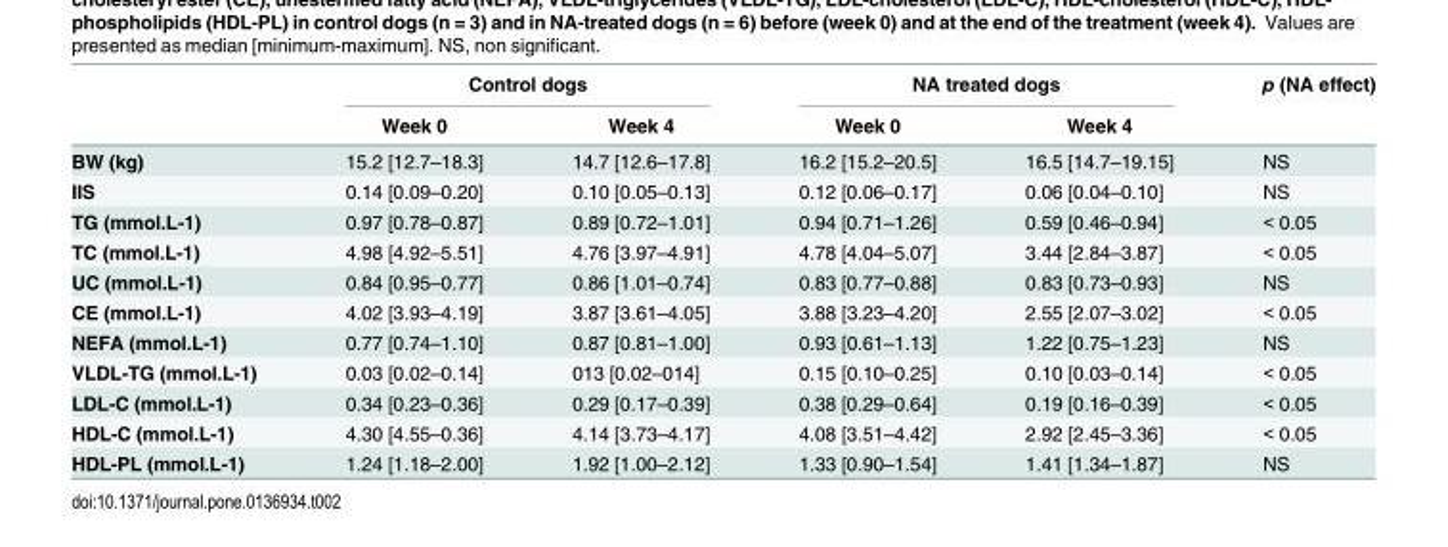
<table><thead><tr><td rowspan="2"></td><td colspan="2">Control dogs</td><td colspan="2">NA treated dogs</td><td rowspan="2">p (NA effect)</td></tr><tr><td>Week 0</td><td>Week 4</td><td>Week 0</td><td>Week 4</td></tr></thead><tbody><tr><td>BW (kg)</td><td>15.2 [12.7–18.3]</td><td>14.7 [12.6–17.8]</td><td>16.2 [15.2–20.5]</td><td>16.5 [14.7–19.15]</td><td>NS</td></tr><tr><td>IIS</td><td>0.14 [0.09–0.20]</td><td>0.10 [0.05–0.13]</td><td>0.12 [0.06–0.17]</td><td>0.06 [0.04–0.10]</td><td>NS</td></tr><tr><td>TG (mmol.L-1)</td><td>0.97 [0.78–0.87]</td><td>0.89 [0.72–1.01]</td><td>0.94 [0.71–1.26]</td><td>0.59 [0.46–0.94]</td><td>&lt; 0.05</td></tr><tr><td>TC (mmol.L-1)</td><td>4.98 [4.92–5.51]</td><td>4.76 [3.97–4.91]</td><td>4.78 [4.04–5.07]</td><td>3.44 [2.84–3.87]</td><td>&lt; 0.05</td></tr><tr><td>UC (mmol.L-1)</td><td>0.84 [0.95–0.77]</td><td>0.86 [1.01–0.74]</td><td>0.83 [0.77–0.88]</td><td>0.83 [0.73–0.93]</td><td>NS</td></tr><tr><td>CE (mmol.L-1)</td><td>4.02 [3.93–4.19]</td><td>3.87 [3.61–4.05]</td><td>3.88 [3.23–4.20]</td><td>2.55 [2.07–3.02]</td><td>&lt; 0.05</td></tr><tr><td>NEFA (mmol.L-1)</td><td>0.77 [0.74–1.10]</td><td>0.87 [0.81–1.00]</td><td>0.93 [0.61–1.13]</td><td>1.22 [0.75–1.23]</td><td>NS</td></tr><tr><td>VLDL-TG (mmol.L-1)</td><td>0.03 [0.02–0.14]</td><td>013 [0.02–014]</td><td>0.15 [0.10–0.25]</td><td>0.10 [0.03–0.14]</td><td>&lt; 0.05</td></tr><tr><td>LDL-C (mmol.L-1)</td><td>0.34 [0.23–0.36]</td><td>0.29 [0.17–0.39]</td><td>0.38 [0.29–0.64]</td><td>0.19 [0.16–0.39]</td><td>&lt; 0.05</td></tr><tr><td>HDL-C (mmol.L-1)</td><td>4.30 [4.55–0.36]</td><td>4.14 [3.73–4.17]</td><td>4.08 [3.51–4.42]</td><td>2.92 [2.45–3.36]</td><td>&lt; 0.05</td></tr><tr><td>HDL-PL (mmol.L-1)</td><td>1.24 [1.18–2.00]</td><td>1.92 [1.00–2.12]</td><td>1.33 [0.90–1.54]</td><td>1.41 [1.34–1.87]</td><td>NS</td></tr></tbody></table>